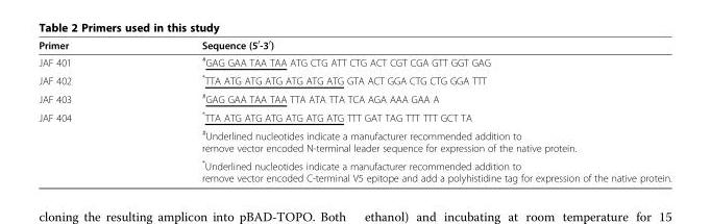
<table><thead><tr><td>Primer</td><td>Sequence (5<sup>′</sup>-3<sup>′</sup>)</td></tr></thead><tbody><tr><td>JAF 401</td><td><sup>#</sup>GAG GAA TAA TAA ATG CTG ATT CTG ACT CGT CGA GTT GGT GAG</td></tr><tr><td>JAF 402</td><td>*TTA ATG ATG ATG ATG ATG ATG GTA ACT GGA CTG CTG GGA TTT</td></tr><tr><td>JAF 403</td><td><sup>#</sup>GAG GAA TAA TAA TTA ATA TTA TCA AGA AAA GAA A</td></tr><tr><td rowspan="3">JAF 404</td><td>*TTA ATG ATG ATG ATG ATG ATG TTT GAT TAG TTT TTT GCT TA</td></tr><tr><td><sup>#</sup>Underlined nucleotides indicate a manufacturer recommended addition to remove vector encoded N-terminal leader sequence for expression of the native protein.</td></tr><tr><td>*Underlined nucleotides indicate a manufacturer recommended addition to remove vector encoded C-terminal V5 epitope and add a polyhistidine tag for expression of the native protein.</td></tr></tbody></table>